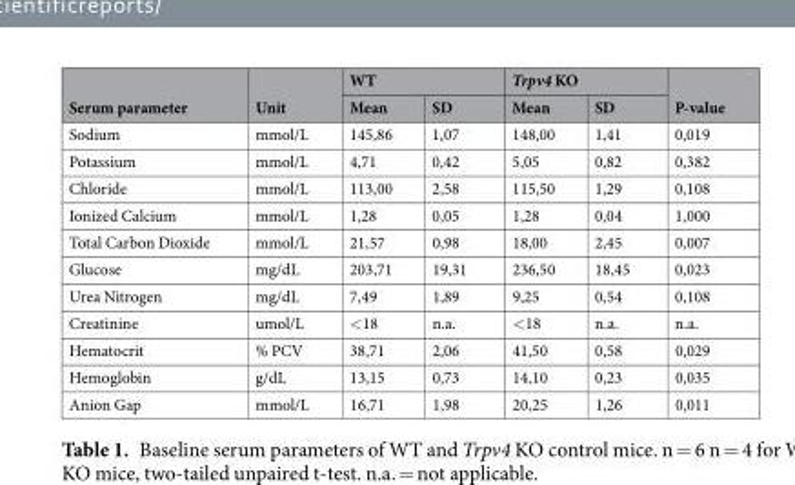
<table><thead><tr><td rowspan="2">Serum parameter</td><td rowspan="2">Unit</td><td colspan="2">WT</td><td colspan="2">Trpv4 KO</td><td rowspan="2">P-value</td></tr><tr><td>Mean</td><td>SD</td><td>Mean</td><td>SD</td></tr></thead><tbody><tr><td>Sodium</td><td>mmol/L</td><td>145,86</td><td>1,07</td><td>148,00</td><td>1,41</td><td>0,019</td></tr><tr><td>Potassium</td><td>mmol/L</td><td>4,71</td><td>0,42</td><td>5,05</td><td>0,82</td><td>0,382</td></tr><tr><td>Chloride</td><td>mmol/L</td><td>113,00</td><td>2,58</td><td>115,50</td><td>1,29</td><td>0,108</td></tr><tr><td>Ionized Calcium</td><td>mmol/L</td><td>1,28</td><td>0,05</td><td>1,28</td><td>0,04</td><td>1,000</td></tr><tr><td>Total Carbon Dioxide</td><td>mmol/L</td><td>21,57</td><td>0,98</td><td>18,00</td><td>2,45</td><td>0,007</td></tr><tr><td>Glucose</td><td>mg/dL</td><td>203,71</td><td>19,31</td><td>236,50</td><td>18,45</td><td>0,023</td></tr><tr><td>Urea Nitrogen</td><td>mg/dL</td><td>7,49</td><td>1,89</td><td>9,25</td><td>0,54</td><td>0,108</td></tr><tr><td>Creatinine</td><td>umol/L</td><td>&lt;18</td><td>n.a.</td><td>&lt;18</td><td>n.a.</td><td>n.a.</td></tr><tr><td>Hematocrit</td><td>% PCV</td><td>38,71</td><td>2,06</td><td>41,50</td><td>0,58</td><td>0,029</td></tr><tr><td>Hemoglobin</td><td>g/dL</td><td>13,15</td><td>0,73</td><td>14,10</td><td>0,23</td><td>0,035</td></tr><tr><td>Anion Gap</td><td>mmol/L</td><td>16,71</td><td>1,98</td><td>20,25</td><td>1,26</td><td>0,011</td></tr></tbody></table>